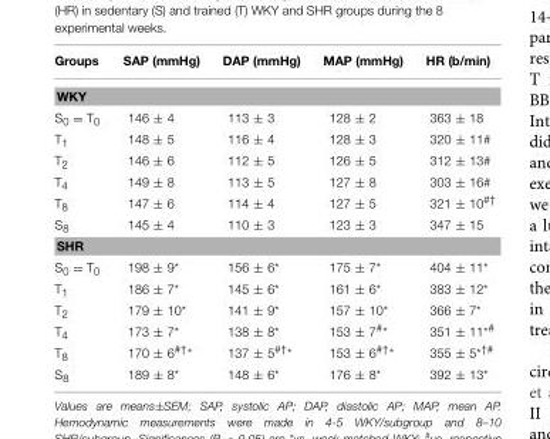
<table><thead><tr><td>Groups</td><td>SAP (mmHg)</td><td>DAP (mmHg)</td><td>MAP (mmHg)</td><td>HR (b/min)</td></tr></thead><tbody><tr><td colspan="5">WKY</td></tr><tr><td>S<sub>0</sub> = T<sub>0</sub></td><td>146 ± 4</td><td>113 ± 3</td><td>128 ± 2</td><td>363 ± 18</td></tr><tr><td>T<sub>1</sub></td><td>148 ± 5</td><td>116 ± 4</td><td>128 ± 3</td><td>320 ± 11<sup>#</sup></td></tr><tr><td>T<sub>2</sub></td><td>146 ± 6</td><td>112 ± 5</td><td>126 ± 5</td><td>312 ± 13<sup>#</sup></td></tr><tr><td>T<sub>4</sub></td><td>149 ± 8</td><td>113 ± 5</td><td>127 ± 8</td><td>303 ± 16<sup>#</sup></td></tr><tr><td>T<sub>8</sub></td><td>147 ± 6</td><td>114 ± 4</td><td>127 ± 5</td><td>321 ± 10<sup>#†</sup></td></tr><tr><td>S<sub>8</sub></td><td>145 ± 4</td><td>110 ± 3</td><td>123 ± 3</td><td>347 ± 15</td></tr><tr><td colspan="5">SHR</td></tr><tr><td>S<sub>0</sub> = T<sub>0</sub></td><td>198 ± 9*</td><td>156 ± 6*</td><td>175 ± 7*</td><td>404 ± 11*</td></tr><tr><td>T<sub>1</sub></td><td>186 ± 7*</td><td>145 ± 6*</td><td>161 ± 6*</td><td>383 ± 12*</td></tr><tr><td>T<sub>2</sub></td><td>179 ± 10*</td><td>141 ± 9*</td><td>157 ± 10*</td><td>366 ± 7*</td></tr><tr><td>T<sub>4</sub></td><td>173 ± 7*</td><td>138 ± 8*</td><td>153 ± 7#*</td><td>351 ± 11*#</td></tr><tr><td>T<sub>8</sub></td><td>170 ± 6<sup>#†*</sup></td><td>137 ± 5<sup>#†*</sup></td><td>153 ± 6<sup>#†*</sup></td><td>355 ± 5*†#</td></tr><tr><td>S<sub>8</sub></td><td>189 ± 8*</td><td>148 ± 6*</td><td>176 ± 8*</td><td>392 ± 13*</td></tr></tbody></table>